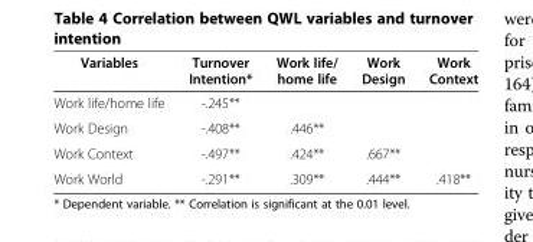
<table><thead><tr><td>Variables</td><td>Turnover Intention*</td><td>Work life/ home life</td><td>Work Design</td><td>Work Context</td></tr></thead><tbody><tr><td>Work life/home life</td><td>-.245**</td><td></td><td></td><td></td></tr><tr><td>Work Design</td><td>-.408**</td><td>.446**</td><td></td><td></td></tr><tr><td>Work Context</td><td>-.497**</td><td>.424**</td><td>.667**</td><td></td></tr><tr><td>Work World</td><td>-.291**</td><td>.309**</td><td>.444**</td><td>.418**</td></tr></tbody></table>